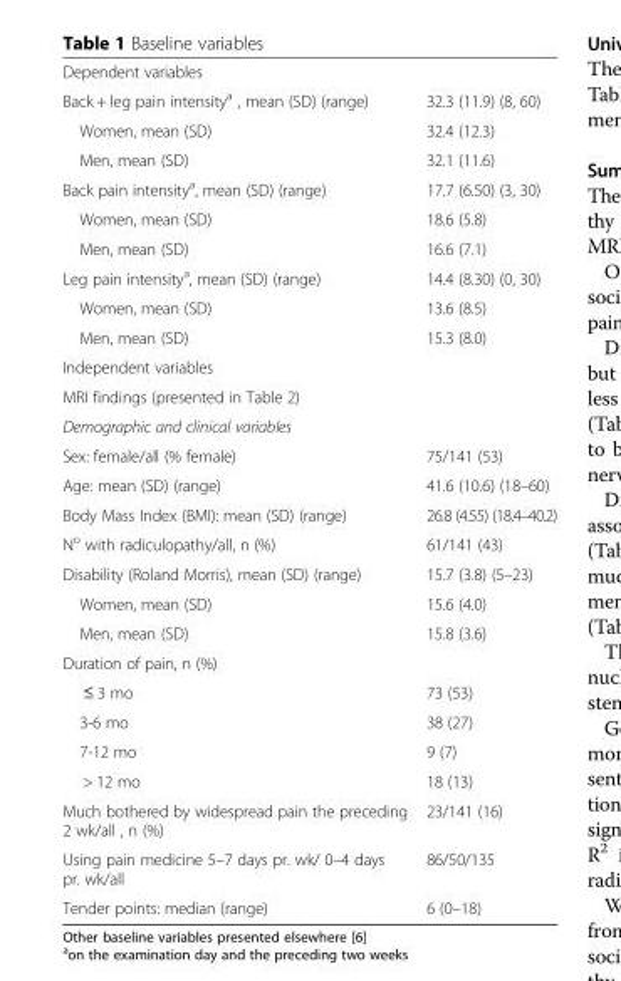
<table><tbody><tr><td colspan="2">Dependent variables</td></tr><tr><td>Back + leg pain intensity<sup>a</sup> , mean (SD) (range)</td><td>32.3 (11.9) (8, 60)</td></tr><tr><td>Women, mean (SD)</td><td>32.4 (12.3)</td></tr><tr><td>Men, mean (SD)</td><td>32.1 (11.6)</td></tr><tr><td>Back pain intensity<sup>a</sup>, mean (SD) (range)</td><td>17.7 (6.50) (3, 30)</td></tr><tr><td>Women, mean (SD)</td><td>18.6 (5.8)</td></tr><tr><td>Men, mean (SD)</td><td>16.6 (7.1)</td></tr><tr><td>Leg pain intensity<sup>a</sup>, mean (SD) (range)</td><td>14.4 (8.30) (0, 30)</td></tr><tr><td>Women, mean (SD)</td><td>13.6 (8.5)</td></tr><tr><td>Men, mean (SD)</td><td>15.3 (8.0)</td></tr><tr><td colspan="2">Independent variables</td></tr><tr><td colspan="2">MRI findings (presented in Table 2)</td></tr><tr><td colspan="2">Demographic and clinical variables</td></tr><tr><td>Sex: female/all (% female)</td><td>75/141 (53)</td></tr><tr><td>Age: mean (SD) (range)</td><td>41.6 (10.6) (18–60)</td></tr><tr><td>Body Mass Index (BMI): mean (SD) (range)</td><td>26.8 (4.55) (18.4–40.2)</td></tr><tr><td>N<sup>o</sup> with radiculopathy/all, n (%)</td><td>61/141 (43)</td></tr><tr><td>Disability (Roland Morris), mean (SD) (range)</td><td>15.7 (3.8) (5–23)</td></tr><tr><td>Women, mean (SD)</td><td>15.6 (4.0)</td></tr><tr><td>Men, mean (SD)</td><td>15.8 (3.6)</td></tr><tr><td colspan="2">Duration of pain, n (%)</td></tr><tr><td>≤ 3 mo</td><td>73 (53)</td></tr><tr><td>3-6 mo</td><td>38 (27)</td></tr><tr><td>7-12 mo</td><td>9 (7)</td></tr><tr><td>&gt; 12 mo</td><td>18 (13)</td></tr><tr><td>Much bothered by widespread pain the preceding 2 wk/all , n (%)</td><td>23/141 (16)</td></tr><tr><td>Using pain medicine 5–7 days pr. wk/ 0–4 days pr. wk/all</td><td>86/50/135</td></tr><tr><td>Tender points: median (range)</td><td>6 (0–18)</td></tr></tbody></table>